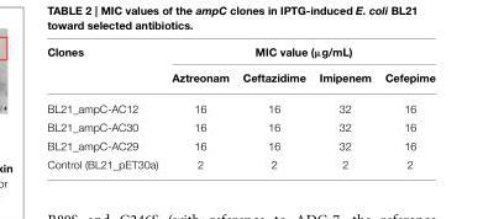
<table><thead><tr><td rowspan="2">Clones</td><td colspan="4">MIC value (µg/mL)</td></tr><tr><td>Aztreonam</td><td>Ceftazidime</td><td>Imipenem</td><td>Cefepime</td></tr></thead><tbody><tr><td>BL21_ampC-AC12</td><td>16</td><td>16</td><td>32</td><td>16</td></tr><tr><td>BL21_ampC-AC30</td><td>16</td><td>16</td><td>32</td><td>16</td></tr><tr><td>BL21_ampC-AC29</td><td>16</td><td>16</td><td>32</td><td>16</td></tr><tr><td>Control (BL21_pET30a)</td><td>2</td><td>2</td><td>2</td><td>2</td></tr></tbody></table>